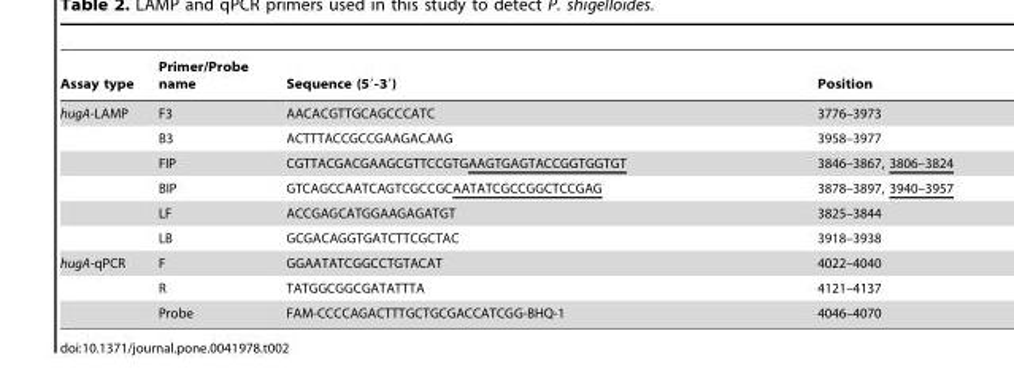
<table><thead><tr><td>Assay type</td><td>Primer/Probe name</td><td>Sequence (5′-3′)</td><td>Position</td></tr></thead><tbody><tr><td rowspan="6">hugA-LAMP</td><td>F3</td><td>AACACGTTGCAGCCCATC</td><td>3776–3973</td></tr><tr><td>B3</td><td>ACTTTACCGCCGAAGACAAG</td><td>3958–3977</td></tr><tr><td>FIP</td><td>CGTTACGACGAAGCGTTCCGTGAAGTGAGTACCGGTGGTGT</td><td>3846–3867, 3806–3824</td></tr><tr><td>BIP</td><td>GTCAGCCAATCAGTCGCCGCAATATCGCCGGCTCCGAG</td><td>3878–3897, 3940–3957</td></tr><tr><td>LF</td><td>ACCGAGCATGGAAGAGATGT</td><td>3825–3844</td></tr><tr><td>LB</td><td>GCGACAGGTGATCTTCGCTAC</td><td>3918–3938</td></tr><tr><td rowspan="3">hugA-qPCR</td><td>F</td><td>GGAATATCGGCCTGTACAT</td><td>4022–4040</td></tr><tr><td>R</td><td>TATGGCGGCGATATTTA</td><td>4121–4137</td></tr><tr><td>Probe</td><td>FAM-CCCCAGACTTTGCTGCGACCATCGG-BHQ-1</td><td>4046–4070</td></tr></tbody></table>